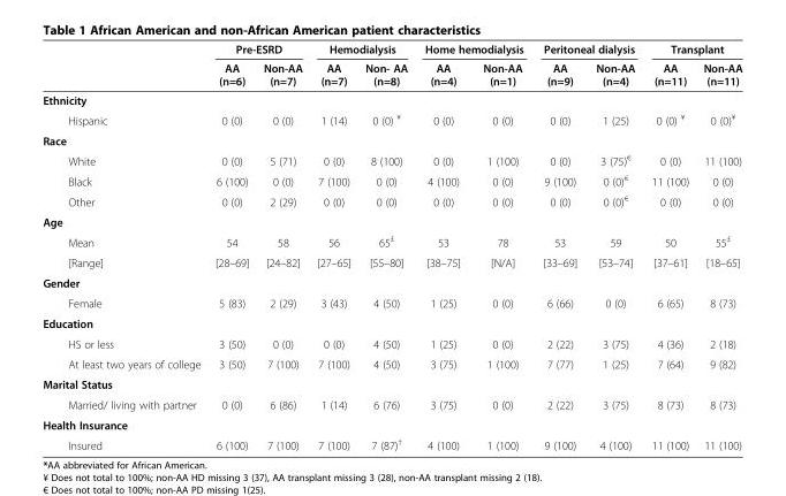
<table><thead><tr><td rowspan="2"></td><td colspan="2">Pre-ESRD</td><td colspan="2">Hemodialysis</td><td colspan="2">Home hemodialysis</td><td colspan="2">Peritoneal dialysis</td><td colspan="2">Transplant</td></tr><tr><td>AA (n=6)</td><td>Non-AA (n=7)</td><td>AA (n=7)</td><td>Non- AA (n=8)</td><td>AA (n=4)</td><td>Non-AA (n=1)</td><td>AA (n=9)</td><td>Non-AA (n=4)</td><td>AA (n=11)</td><td>Non-AA (n=11)</td></tr></thead><tbody><tr><td colspan="11">Ethnicity</td></tr><tr><td>Hispanic</td><td>0 (0)</td><td>0 (0)</td><td>1 (14)</td><td>0 (0) <sup>¥</sup></td><td>0 (0)</td><td>0 (0)</td><td>0 (0)</td><td>1 (25)</td><td>0 (0) <sup>¥</sup></td><td>0 (0)<sup>¥</sup></td></tr><tr><td colspan="11">Race</td></tr><tr><td>White</td><td>0 (0)</td><td>5 (71)</td><td>0 (0)</td><td>8 (100)</td><td>0 (0)</td><td>1 (100)</td><td>0 (0)</td><td>3 (75)<sup>€</sup></td><td>0 (0)</td><td>11 (100)</td></tr><tr><td>Black</td><td>6 (100)</td><td>0 (0)</td><td>7 (100)</td><td>0 (0)</td><td>4 (100)</td><td>0 (0)</td><td>9 (100)</td><td>0 (0)<sup>€</sup></td><td>11 (100)</td><td>0 (0)</td></tr><tr><td>Other</td><td>0 (0)</td><td>2 (29)</td><td>0 (0)</td><td>0 (0)</td><td>0 (0)</td><td>0 (0)</td><td>0 (0)</td><td>0 (0)<sup>€</sup></td><td>0 (0)</td><td>0 (0)</td></tr><tr><td colspan="11">Age</td></tr><tr><td>Mean</td><td>54</td><td>58</td><td>56</td><td>65<sup>£</sup></td><td>53</td><td>78</td><td>53</td><td>59</td><td>50</td><td>55<sup>£</sup></td></tr><tr><td>[Range]</td><td>[28–69]</td><td>[24–82]</td><td>[27–65]</td><td>[55–80]</td><td>[38–75]</td><td>[N/A]</td><td>[33–69]</td><td>[53–74]</td><td>[37–61]</td><td>[18–65]</td></tr><tr><td colspan="11">Gender</td></tr><tr><td>Female</td><td>5 (83)</td><td>2 (29)</td><td>3 (43)</td><td>4 (50)</td><td>1 (25)</td><td>0 (0)</td><td>6 (66)</td><td>0 (0)</td><td>6 (65)</td><td>8 (73)</td></tr><tr><td colspan="11">Education</td></tr><tr><td>HS or less</td><td>3 (50)</td><td>0 (0)</td><td>0 (0)</td><td>4 (50)</td><td>1 (25)</td><td>0 (0)</td><td>2 (22)</td><td>3 (75)</td><td>4 (36)</td><td>2 (18)</td></tr><tr><td>At least two years of college</td><td>3 (50)</td><td>7 (100)</td><td>7 (100)</td><td>4 (50)</td><td>3 (75)</td><td>1 (100)</td><td>7 (77)</td><td>1 (25)</td><td>7 (64)</td><td>9 (82)</td></tr><tr><td colspan="11">Marital Status</td></tr><tr><td>Married/ living with partner</td><td>0 (0)</td><td>6 (86)</td><td>1 (14)</td><td>6 (76)</td><td>3 (75)</td><td>0 (0)</td><td>2 (22)</td><td>3 (75)</td><td>8 (73)</td><td>8 (73)</td></tr><tr><td colspan="11">Health Insurance</td></tr><tr><td>Insured</td><td>6 (100)</td><td>7 (100)</td><td>7 (100)</td><td>7 (87)<sup>†</sup></td><td>4 (100)</td><td>1 (100)</td><td>9 (100)</td><td>4 (100)</td><td>11 (100)</td><td>11 (100)</td></tr></tbody></table>